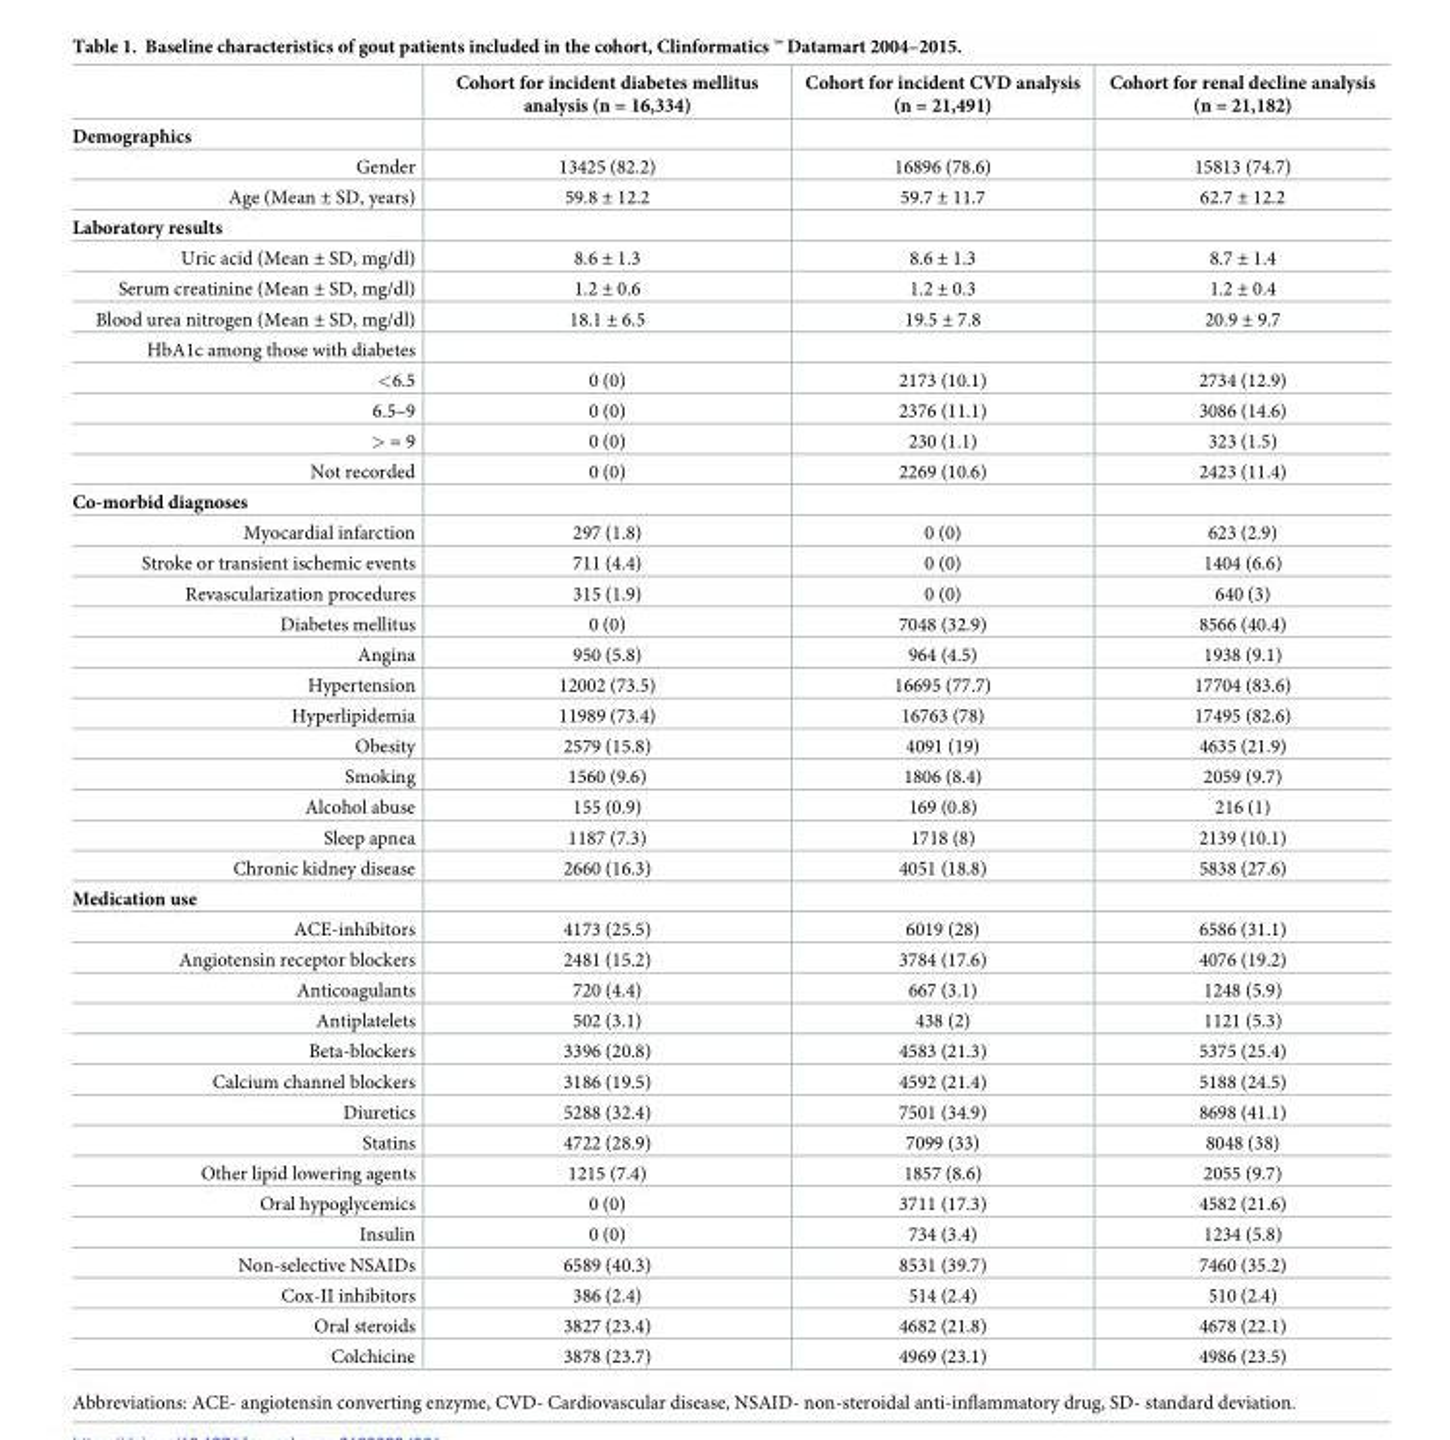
<table><thead><tr><td></td><td>Cohort for incident diabetes mellitus analysis (n = 16,334)</td><td>Cohort for incident CVD analysis (n = 21,491)</td><td>Cohort for renal decline analysis (n = 21,182)</td></tr></thead><tbody><tr><td colspan="4">Demographics</td></tr><tr><td>Gender</td><td>13425 (82.2)</td><td>16896 (78.6)</td><td>15813 (74.7)</td></tr><tr><td>Age (Mean ± SD, years)</td><td>59.8 ± 12.2</td><td>59.7 ± 11.7</td><td>62.7 ± 12.2</td></tr><tr><td colspan="4">Laboratory results</td></tr><tr><td>Uric acid (Mean ± SD, mg/dl)</td><td>8.6 ± 1.3</td><td>8.6 ± 1.3</td><td>8.7 ± 1.4</td></tr><tr><td>Serum creatinine (Mean ± SD, mg/dl)</td><td>1.2 ± 0.6</td><td>1.2 ± 0.3</td><td>1.2 ± 0.4</td></tr><tr><td>Blood urea nitrogen (Mean ± SD, mg/dl)</td><td>18.1 ± 6.5</td><td>19.5 ± 7.8</td><td>20.9 ± 9.7</td></tr><tr><td colspan="4">HbA1c among those with diabetes</td></tr><tr><td>&lt;6.5</td><td>0 (0)</td><td>2173 (10.1)</td><td>2734 (12.9)</td></tr><tr><td>6.5–9</td><td>0 (0)</td><td>2376 (11.1)</td><td>3086 (14.6)</td></tr><tr><td>&gt; = 9</td><td>0 (0)</td><td>230 (1.1)</td><td>323 (1.5)</td></tr><tr><td>Not recorded</td><td>0 (0)</td><td>2269 (10.6)</td><td>2423 (11.4)</td></tr><tr><td colspan="4">Co-morbid diagnoses</td></tr><tr><td>Myocardial infarction</td><td>297 (1.8)</td><td>0 (0)</td><td>623 (2.9)</td></tr><tr><td>Stroke or transient ischemic events</td><td>711 (4.4)</td><td>0 (0)</td><td>1404 (6.6)</td></tr><tr><td>Revascularization procedures</td><td>315 (1.9)</td><td>0 (0)</td><td>640 (3)</td></tr><tr><td>Diabetes mellitus</td><td>0 (0)</td><td>7048 (32.9)</td><td>8566 (40.4)</td></tr><tr><td>Angina</td><td>950 (5.8)</td><td>964 (4.5)</td><td>1938 (9.1)</td></tr><tr><td>Hypertension</td><td>12002 (73.5)</td><td>16695 (77.7)</td><td>17704 (83.6)</td></tr><tr><td>Hyperlipidemia</td><td>11989 (73.4)</td><td>16763 (78)</td><td>17495 (82.6)</td></tr><tr><td>Obesity</td><td>2579 (15.8)</td><td>4091 (19)</td><td>4635 (21.9)</td></tr><tr><td>Smoking</td><td>1560 (9.6)</td><td>1806 (8.4)</td><td>2059 (9.7)</td></tr><tr><td>Alcohol abuse</td><td>155 (0.9)</td><td>169 (0.8)</td><td>216 (1)</td></tr><tr><td>Sleep apnea</td><td>1187 (7.3)</td><td>1718 (8)</td><td>2139 (10.1)</td></tr><tr><td>Chronic kidney disease</td><td>2660 (16.3)</td><td>4051 (18.8)</td><td>5838 (27.6)</td></tr><tr><td colspan="4">Medication use</td></tr><tr><td>ACE-inhibitors</td><td>4173 (25.5)</td><td>6019 (28)</td><td>6586 (31.1)</td></tr><tr><td>Angiotensin receptor blockers</td><td>2481 (15.2)</td><td>3784 (17.6)</td><td>4076 (19.2)</td></tr><tr><td>Anticoagulants</td><td>720 (4.4)</td><td>667 (3.1)</td><td>1248 (5.9)</td></tr><tr><td>Antiplatelets</td><td>502 (3.1)</td><td>438 (2)</td><td>1121 (5.3)</td></tr><tr><td>Beta-blockers</td><td>3396 (20.8)</td><td>4583 (21.3)</td><td>5375 (25.4)</td></tr><tr><td>Calcium channel blockers</td><td>3186 (19.5)</td><td>4592 (21.4)</td><td>5188 (24.5)</td></tr><tr><td>Diuretics</td><td>5288 (32.4)</td><td>7501 (34.9)</td><td>8698 (41.1)</td></tr><tr><td>Statins</td><td>4722 (28.9)</td><td>7099 (33)</td><td>8048 (38)</td></tr><tr><td>Other lipid lowering agents</td><td>1215 (7.4)</td><td>1857 (8.6)</td><td>2055 (9.7)</td></tr><tr><td>Oral hypoglycemics</td><td>0 (0)</td><td>3711 (17.3)</td><td>4582 (21.6)</td></tr><tr><td>Insulin</td><td>0 (0)</td><td>734 (3.4)</td><td>1234 (5.8)</td></tr><tr><td>Non-selective NSAIDs</td><td>6589 (40.3)</td><td>8531 (39.7)</td><td>7460 (35.2)</td></tr><tr><td>Cox-II inhibitors</td><td>386 (2.4)</td><td>514 (2.4)</td><td>510 (2.4)</td></tr><tr><td>Oral steroids</td><td>3827 (23.4)</td><td>4682 (21.8)</td><td>4678 (22.1)</td></tr><tr><td>Colchicine</td><td>3878 (23.7)</td><td>4969 (23.1)</td><td>4986 (23.5)</td></tr></tbody></table>